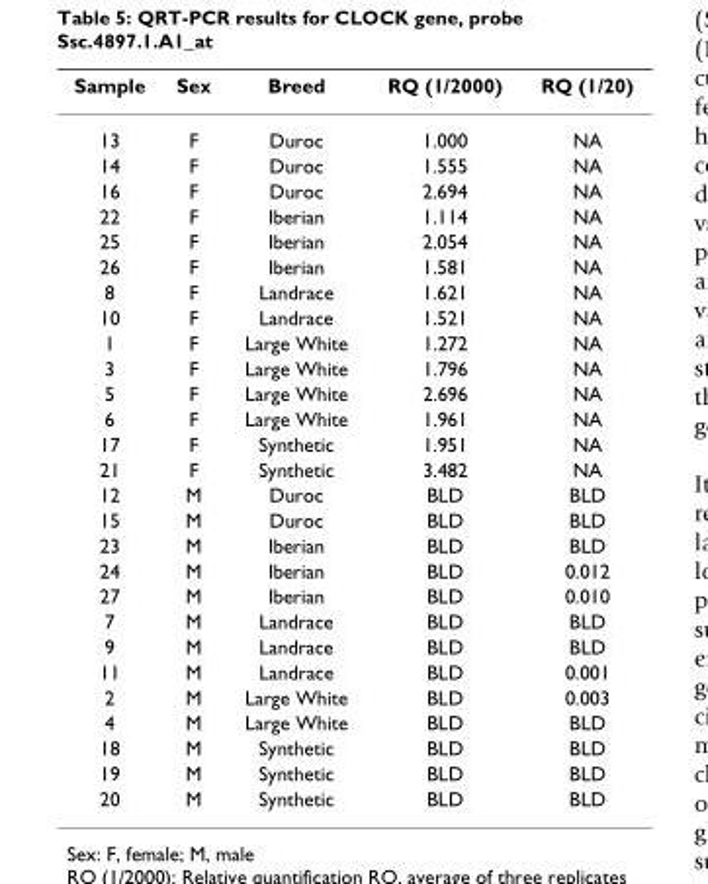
<table><thead><tr><td>Sample</td><td>Sex</td><td>Breed</td><td>RQ (1/2000)</td><td>RQ (1/20)</td></tr></thead><tbody><tr><td>13</td><td>F</td><td>Duroc</td><td>1.000</td><td>NA</td></tr><tr><td>14</td><td>F</td><td>Duroc</td><td>1.555</td><td>NA</td></tr><tr><td>16</td><td>F</td><td>Duroc</td><td>2.694</td><td>NA</td></tr><tr><td>22</td><td>F</td><td>Iberian</td><td>1.114</td><td>NA</td></tr><tr><td>25</td><td>F</td><td>Iberian</td><td>2.054</td><td>NA</td></tr><tr><td>26</td><td>F</td><td>Iberian</td><td>1.581</td><td>NA</td></tr><tr><td>8</td><td>F</td><td>Landrace</td><td>1.621</td><td>NA</td></tr><tr><td>10</td><td>F</td><td>Landrace</td><td>1.521</td><td>NA</td></tr><tr><td>1</td><td>F</td><td>Large White</td><td>1.272</td><td>NA</td></tr><tr><td>3</td><td>F</td><td>Large White</td><td>1.796</td><td>NA</td></tr><tr><td>5</td><td>F</td><td>Large White</td><td>2.696</td><td>NA</td></tr><tr><td>6</td><td>F</td><td>Large White</td><td>1.961</td><td>NA</td></tr><tr><td>17</td><td>F</td><td>Synthetic</td><td>1.951</td><td>NA</td></tr><tr><td>21</td><td>F</td><td>Synthetic</td><td>3.482</td><td>NA</td></tr><tr><td>12</td><td>M</td><td>Duroc</td><td>BLD</td><td>BLD</td></tr><tr><td>15</td><td>M</td><td>Duroc</td><td>BLD</td><td>BLD</td></tr><tr><td>23</td><td>M</td><td>Iberian</td><td>BLD</td><td>BLD</td></tr><tr><td>24</td><td>M</td><td>Iberian</td><td>BLD</td><td>0.012</td></tr><tr><td>27</td><td>M</td><td>Iberian</td><td>BLD</td><td>0.010</td></tr><tr><td>7</td><td>M</td><td>Landrace</td><td>BLD</td><td>BLD</td></tr><tr><td>9</td><td>M</td><td>Landrace</td><td>BLD</td><td>BLD</td></tr><tr><td>11</td><td>M</td><td>Landrace</td><td>BLD</td><td>0.001</td></tr><tr><td>2</td><td>M</td><td>Large White</td><td>BLD</td><td>0.003</td></tr><tr><td>4</td><td>M</td><td>Large White</td><td>BLD</td><td>BLD</td></tr><tr><td>18</td><td>M</td><td>Synthetic</td><td>BLD</td><td>BLD</td></tr><tr><td>19</td><td>M</td><td>Synthetic</td><td>BLD</td><td>BLD</td></tr><tr><td>20</td><td>M</td><td>Synthetic</td><td>BLD</td><td>BLD</td></tr></tbody></table>